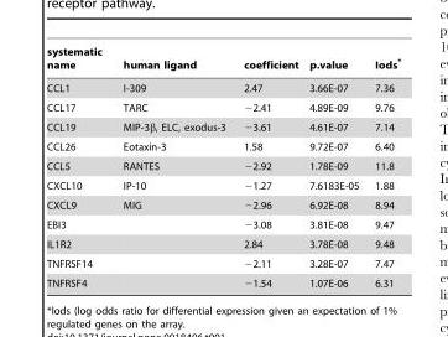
<table><thead><tr><td>systematic name</td><td>human ligand</td><td>coefficient</td><td>p.value</td><td>Iods*</td></tr></thead><tbody><tr><td>CCL1</td><td>I-309</td><td>2.47</td><td>3.66E-07</td><td>7.36</td></tr><tr><td>CCL17</td><td>TARC</td><td>−2.41</td><td>4.89E-09</td><td>9.76</td></tr><tr><td>CCL19</td><td>MIP-3β, ELC, exodus-3</td><td>−3.61</td><td>4.61E-07</td><td>7.14</td></tr><tr><td>CCL26</td><td>Eotaxin-3</td><td>1.58</td><td>9.72E-07</td><td>6.40</td></tr><tr><td>CCL5</td><td>RANTES</td><td>−2.92</td><td>1.78E-09</td><td>11.8</td></tr><tr><td>CXCL10</td><td>IP-10</td><td>−1.27</td><td>7.6183E-05</td><td>1.88</td></tr><tr><td>CXCL9</td><td>MIG</td><td>−2.96</td><td>6.92E-08</td><td>8.94</td></tr><tr><td>EBI3</td><td></td><td>−3.08</td><td>3.81E-08</td><td>9.47</td></tr><tr><td>IL1R2</td><td></td><td>2.84</td><td>3.78E-08</td><td>9.48</td></tr><tr><td>TNFRSF14</td><td></td><td>−2.11</td><td>3.28E-07</td><td>7.47</td></tr><tr><td>TNFRSF4</td><td></td><td>−1.54</td><td>1.07E-06</td><td>6.31</td></tr></tbody></table>